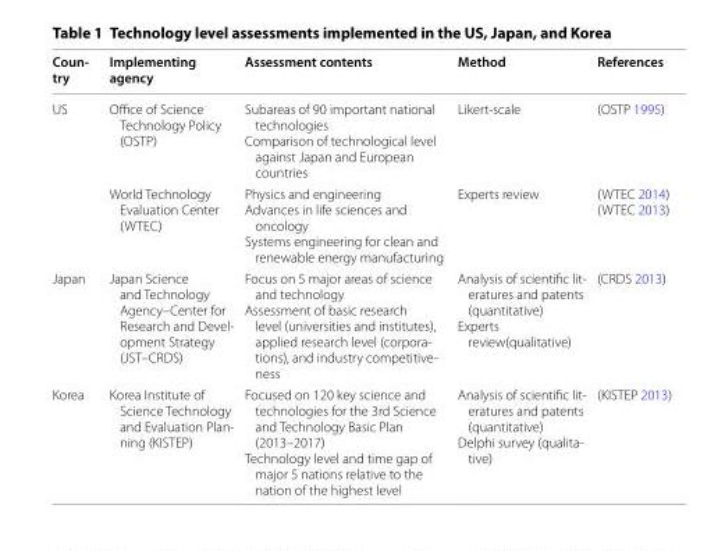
<table><thead><tr><td>Coun- try</td><td>Implementing agency</td><td>Assessment contents</td><td>Method</td><td>References</td></tr></thead><tbody><tr><td rowspan="2">US</td><td>Office of Science Technology Policy (OSTP)</td><td>Subareas of 90 important national technologies Comparison of technological level against Japan and European countries</td><td>Likert-scale</td><td>(OSTP 1995)</td></tr><tr><td>World Technology Evaluation Center (WTEC)</td><td>Physics and engineering Advances in life sciences and oncology Systems engineering for clean and renewable energy manufacturing</td><td>Experts review</td><td>(WTEC 2014) (WTEC 2013)</td></tr><tr><td>Japan</td><td>Japan Science and Technology Agency–Center for Research and Devel- opment Strategy (JST–CRDS)</td><td>Focus on 5 major areas of science and technology Assessment of basic research level (universities and institutes), applied research level (corpora- tions), and industry competitive- ness</td><td>Analysis of scientific lit- eratures and patents (quantitative) Experts review(qualitative)</td><td>(CRDS 2013)</td></tr><tr><td>Korea</td><td>Korea Institute of Science Technology and Evaluation Plan- ning (KISTEP)</td><td>Focused on 120 key science and technologies for the 3rd Science and Technology Basic Plan (2013–2017) Technology level and time gap of major 5 nations relative to the nation of the highest level</td><td>Analysis of scientific lit- eratures and patents (quantitative) Delphi survey (qualita- tive)</td><td>(KISTEP 2013)</td></tr></tbody></table>